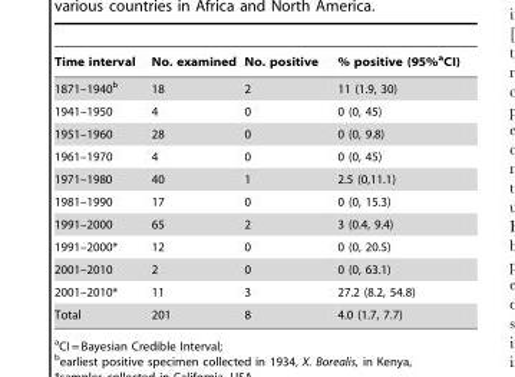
<table><thead><tr><td>Time interval</td><td>No. examined</td><td>No. positive</td><td>% positive (95%<sup>a</sup>CI)</td></tr></thead><tbody><tr><td>1871–1940<sup>b</sup></td><td>18</td><td>2</td><td>11 (1.9, 30)</td></tr><tr><td>1941–1950</td><td>4</td><td>0</td><td>0 (0, 45)</td></tr><tr><td>1951–1960</td><td>28</td><td>0</td><td>0 (0, 9.8)</td></tr><tr><td>1961–1970</td><td>4</td><td>0</td><td>0 (0, 45)</td></tr><tr><td>1971–1980</td><td>40</td><td>1</td><td>2.5 (0,11.1)</td></tr><tr><td>1981–1990</td><td>17</td><td>0</td><td>0 (0, 15.3)</td></tr><tr><td>1991–2000</td><td>65</td><td>2</td><td>3 (0.4, 9.4)</td></tr><tr><td>1991–2000*</td><td>12</td><td>0</td><td>0 (0, 20.5)</td></tr><tr><td>2001–2010</td><td>2</td><td>0</td><td>0 (0, 63.1)</td></tr><tr><td>2001–2010*</td><td>11</td><td>3</td><td>27.2 (8.2, 54.8)</td></tr><tr><td>Total</td><td>201</td><td>8</td><td>4.0 (1.7, 7.7)</td></tr></tbody></table>